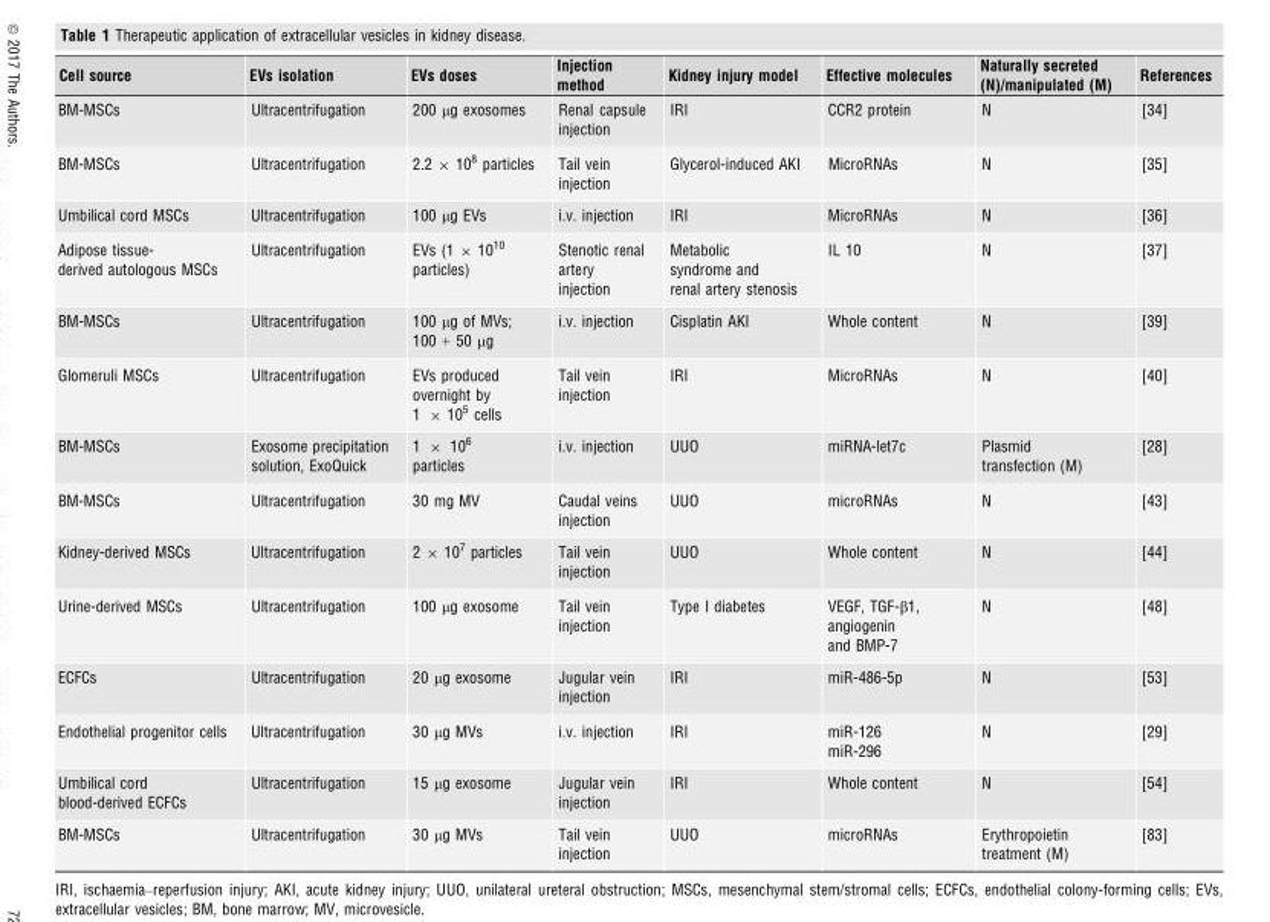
<table><thead><tr><td>Cell source</td><td>EVs isolation</td><td>EVs doses</td><td>Injection method</td><td>Kidney injury model</td><td>Effective molecules</td><td>Naturally secreted (N)/manipulated (M)</td><td>References</td></tr></thead><tbody><tr><td>BM-MSCs</td><td>Ultracentrifugation</td><td>200 μg exosomes</td><td>Renal capsule injection</td><td>IRI</td><td>CCR2 protein</td><td>N</td><td>[34]</td></tr><tr><td>BM-MSCs</td><td>Ultracentrifugation</td><td>2.2 × 10<sup>8</sup> particles</td><td>Tail vein injection</td><td>Glycerol-induced AKI</td><td>MicroRNAs</td><td>N</td><td>[35]</td></tr><tr><td>Umbilical cord MSCs</td><td>Ultracentrifugation</td><td>100 μg EVs</td><td>i.v. injection</td><td>IRI</td><td>MicroRNAs</td><td>N</td><td>[36]</td></tr><tr><td>Adipose tissue- derived autologous MSCs</td><td>Ultracentrifugation</td><td>EVs (1 × 10<sup>10</sup> particles)</td><td>Stenotic renal artery injection</td><td>Metabolic syndrome and renal artery stenosis</td><td>IL 10</td><td>N</td><td>[37]</td></tr><tr><td>BM-MSCs</td><td>Ultracentrifugation</td><td>100 μg of MVs; 100 + 50 μg</td><td>i.v. injection</td><td>Cisplatin AKI</td><td>Whole content</td><td>N</td><td>[39]</td></tr><tr><td>Glomeruli MSCs</td><td>Ultracentrifugation</td><td>EVs produced overnight by 1 × 10<sup>5</sup> cells</td><td>Tail vein injection</td><td>IRI</td><td>MicroRNAs</td><td>N</td><td>[40]</td></tr><tr><td>BM-MSCs</td><td>Exosome precipitation solution, ExoQuick</td><td>1 × 10<sup>6</sup> particles</td><td>i.v. injection</td><td>UUO</td><td>miRNA-let7c</td><td>Plasmid transfection (M)</td><td>[28]</td></tr><tr><td>BM-MSCs</td><td>Ultracentrifugation</td><td>30 mg MV</td><td>Caudal veins injection</td><td>UUO</td><td>microRNAs</td><td>N</td><td>[43]</td></tr><tr><td>Kidney-derived MSCs</td><td>Ultracentrifugation</td><td>2 × 10<sup>7</sup> particles</td><td>Tail vein injection</td><td>UUO</td><td>Whole content</td><td>N</td><td>[44]</td></tr><tr><td>Urine-derived MSCs</td><td>Ultracentrifugation</td><td>100 μg exosome</td><td>Tail vein injection</td><td>Type I diabetes</td><td>VEGF, TGF-β1, angiogenin and BMP-7</td><td>N</td><td>[48]</td></tr><tr><td>ECFCs</td><td>Ultracentrifugation</td><td>20 μg exosome</td><td>Jugular vein injection</td><td>IRI</td><td>miR-486-5p</td><td>N</td><td>[53]</td></tr><tr><td>Endothelial progenitor cells</td><td>Ultracentrifugation</td><td>30 μg MVs</td><td>i.v. injection</td><td>IRI</td><td>miR-126 miR-296</td><td>N</td><td>[29]</td></tr><tr><td>Umbilical cord blood-derived ECFCs</td><td>Ultracentrifugation</td><td>15 μg exosome</td><td>Jugular vein injection</td><td>IRI</td><td>Whole content</td><td>N</td><td>[54]</td></tr><tr><td>BM-MSCs</td><td>Ultracentrifugation</td><td>30 μg MVs</td><td>Tail vein injection</td><td>UUO</td><td>microRNAs</td><td>Erythropoietin treatment (M)</td><td>[83]</td></tr></tbody></table>